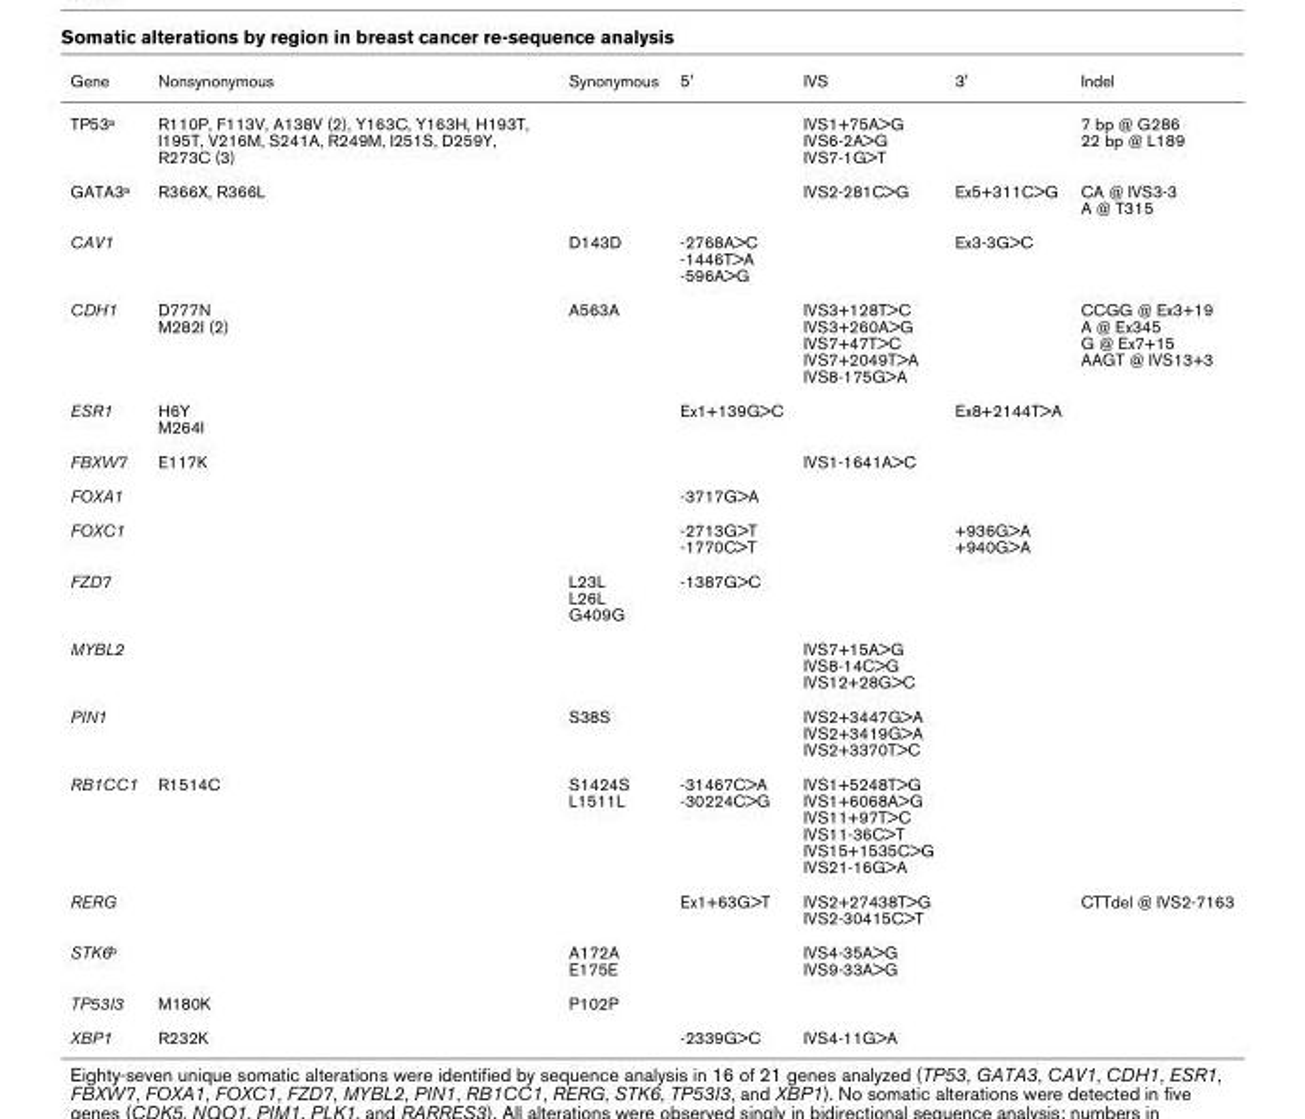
<table><thead><tr><td>Gene</td><td>Nonsynonymous</td><td>Synonymous</td><td>5&#x27;</td><td>IVS</td><td>3&#x27;</td><td>Indel</td></tr></thead><tbody><tr><td>TP53a</td><td>R110P, F113V, A138V (2), Y163C, Y163H, H193T, I195T, V216M, S241A, R249M, I251S, D259Y, R273C (3)</td><td></td><td></td><td>IVS1+75A&gt;G IVS6-2A&gt;G IVS7-1G&gt;T</td><td></td><td>7 bp @ G286 22 bp @ L189</td></tr><tr><td>GATA3a</td><td>R366X, R366L</td><td></td><td></td><td>IVS2-281C&gt;G</td><td>Ex5+311C&gt;G</td><td>CA @ IVS3-3 A @ T315</td></tr><tr><td>CAV1</td><td></td><td>D143D</td><td>-2768A&gt;C -1446T&gt;A -596A&gt;G</td><td></td><td>Ex3-3G&gt;C</td><td></td></tr><tr><td>CDH1</td><td>D777N M282I (2)</td><td>A563A</td><td></td><td>IVS3+128T&gt;C IVS3+260A&gt;G IVS7+47T&gt;C IVS7+2049T&gt;A IVS8-175G&gt;A</td><td></td><td>CCGG @ Ex3+19 A @ Ex345 G @ Ex7+15 AAGT @ IVS13+3</td></tr><tr><td>ESR1</td><td>H6Y M264I</td><td></td><td>Ex1+139G&gt;C</td><td></td><td>Ex8+2144T&gt;A</td><td></td></tr><tr><td>FBXW7</td><td>E117K</td><td></td><td></td><td>IVS1-1641A&gt;C</td><td></td><td></td></tr><tr><td>FOXA1</td><td></td><td></td><td>-3717G&gt;A</td><td></td><td></td><td></td></tr><tr><td>FOXC1</td><td></td><td></td><td>-2713G&gt;T -1770C&gt;T</td><td></td><td>+936G&gt;A +940G&gt;A</td><td></td></tr><tr><td>FZD7</td><td></td><td>L23L L26L G409G</td><td>-1387G&gt;C</td><td></td><td></td><td></td></tr><tr><td>MYBL2</td><td></td><td></td><td></td><td>IVS7+15A&gt;G IVS8-14C&gt;G IVS12+28G&gt;C</td><td></td><td></td></tr><tr><td>PIN1</td><td></td><td>S38S</td><td></td><td>IVS2+3447G&gt;A IVS2+3419G&gt;A IVS2+3370T&gt;C</td><td></td><td></td></tr><tr><td>RB1CC1</td><td>R1514C</td><td>S1424S L1511L</td><td>-31467C&gt;A -30224C&gt;G</td><td>IVS1+5248T&gt;G IVS1+6068A&gt;G IVS11+97T&gt;C IVS11-36C&gt;T IVS15+1535C&gt;G IVS21-16G&gt;A</td><td></td><td></td></tr><tr><td>RERG</td><td></td><td></td><td>Ex1+63G&gt;T</td><td>IVS2+27438T&gt;G IVS2-30415C&gt;T</td><td></td><td>CTTdel @ IVS2-7163</td></tr><tr><td>STK6b</td><td></td><td>A172A E175E</td><td></td><td>IVS4-35A&gt;G IVS9-33A&gt;G</td><td></td><td></td></tr><tr><td>TP53I3</td><td>M180K</td><td>P102P</td><td></td><td></td><td></td><td></td></tr><tr><td>XBP1</td><td>R232K</td><td></td><td>-2339G&gt;C</td><td>IVS4-11G&gt;A</td><td></td><td></td></tr></tbody></table>